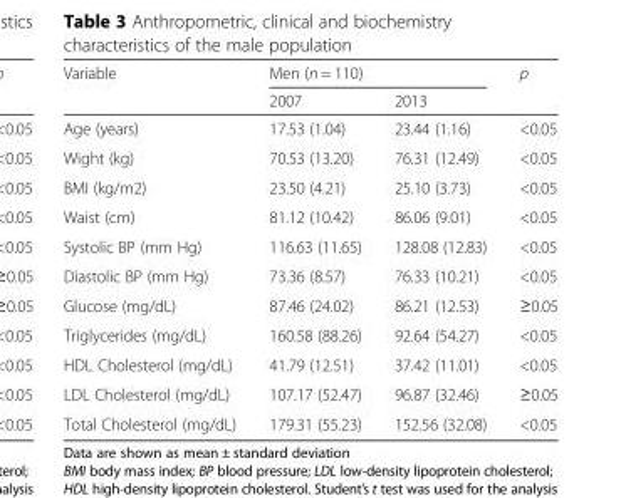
<table><thead><tr><td rowspan="2">Variable</td><td colspan="2">Men (n = 110)</td><td rowspan="2">p</td></tr><tr><td>2007</td><td>2013</td></tr></thead><tbody><tr><td>Age (years)</td><td>17.53 (1.04)</td><td>23.44 (1.16)</td><td>&lt;0.05</td></tr><tr><td>Wight (kg)</td><td>70.53 (13.20)</td><td>76.31 (12.49)</td><td>&lt;0.05</td></tr><tr><td>BMI (kg/m2)</td><td>23.50 (4.21)</td><td>25.10 (3.73)</td><td>&lt;0.05</td></tr><tr><td>Waist (cm)</td><td>81.12 (10.42)</td><td>86.06 (9.01)</td><td>&lt;0.05</td></tr><tr><td>Systolic BP (mm Hg)</td><td>116.63 (11.65)</td><td>128.08 (12.83)</td><td>&lt;0.05</td></tr><tr><td>Diastolic BP (mm Hg)</td><td>73.36 (8.57)</td><td>76.33 (10.21)</td><td>&lt;0.05</td></tr><tr><td>Glucose (mg/dL)</td><td>87.46 (24.02)</td><td>86.21 (12.53)</td><td>≥0.05</td></tr><tr><td>Triglycerides (mg/dL)</td><td>160.58 (88.26)</td><td>92.64 (54.27)</td><td>&lt;0.05</td></tr><tr><td>HDL Cholesterol (mg/dL)</td><td>41.79 (12.51)</td><td>37.42 (11.01)</td><td>&lt;0.05</td></tr><tr><td>LDL Cholesterol (mg/dL)</td><td>107.17 (52.47)</td><td>96.87 (32.46)</td><td>≥0.05</td></tr><tr><td>Total Cholesterol (mg/dL)</td><td>179.31 (55.23)</td><td>152.56 (32.08)</td><td>&lt;0.05</td></tr></tbody></table>